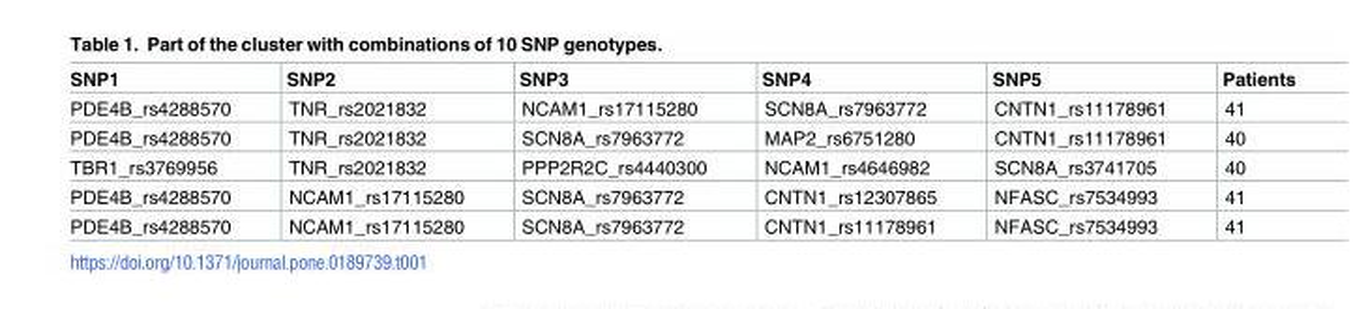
<table><thead><tr><td>SNP1</td><td>SNP2</td><td>SNP3</td><td>SNP4</td><td>SNP5</td><td>Patients</td></tr></thead><tbody><tr><td>PDE4B_rs4288570</td><td>TNR_rs2021832</td><td>NCAM1_rs17115280</td><td>SCN8A_rs7963772</td><td>CNTN1_rs11178961</td><td>41</td></tr><tr><td>PDE4B_rs4288570</td><td>TNR_rs2021832</td><td>SCN8A_rs7963772</td><td>MAP2_rs6751280</td><td>CNTN1_rs11178961</td><td>40</td></tr><tr><td>TBR1_rs3769956</td><td>TNR_rs2021832</td><td>PPP2R2C_rs4440300</td><td>NCAM1_rs4646982</td><td>SCN8A_rs3741705</td><td>40</td></tr><tr><td>PDE4B_rs4288570</td><td>NCAM1_rs17115280</td><td>SCN8A_rs7963772</td><td>CNTN1_rs12307865</td><td>NFASC_rs7534993</td><td>41</td></tr><tr><td>PDE4B_rs4288570</td><td>NCAM1_rs17115280</td><td>SCN8A_rs7963772</td><td>CNTN1_rs11178961</td><td>NFASC_rs7534993</td><td>41</td></tr></tbody></table>